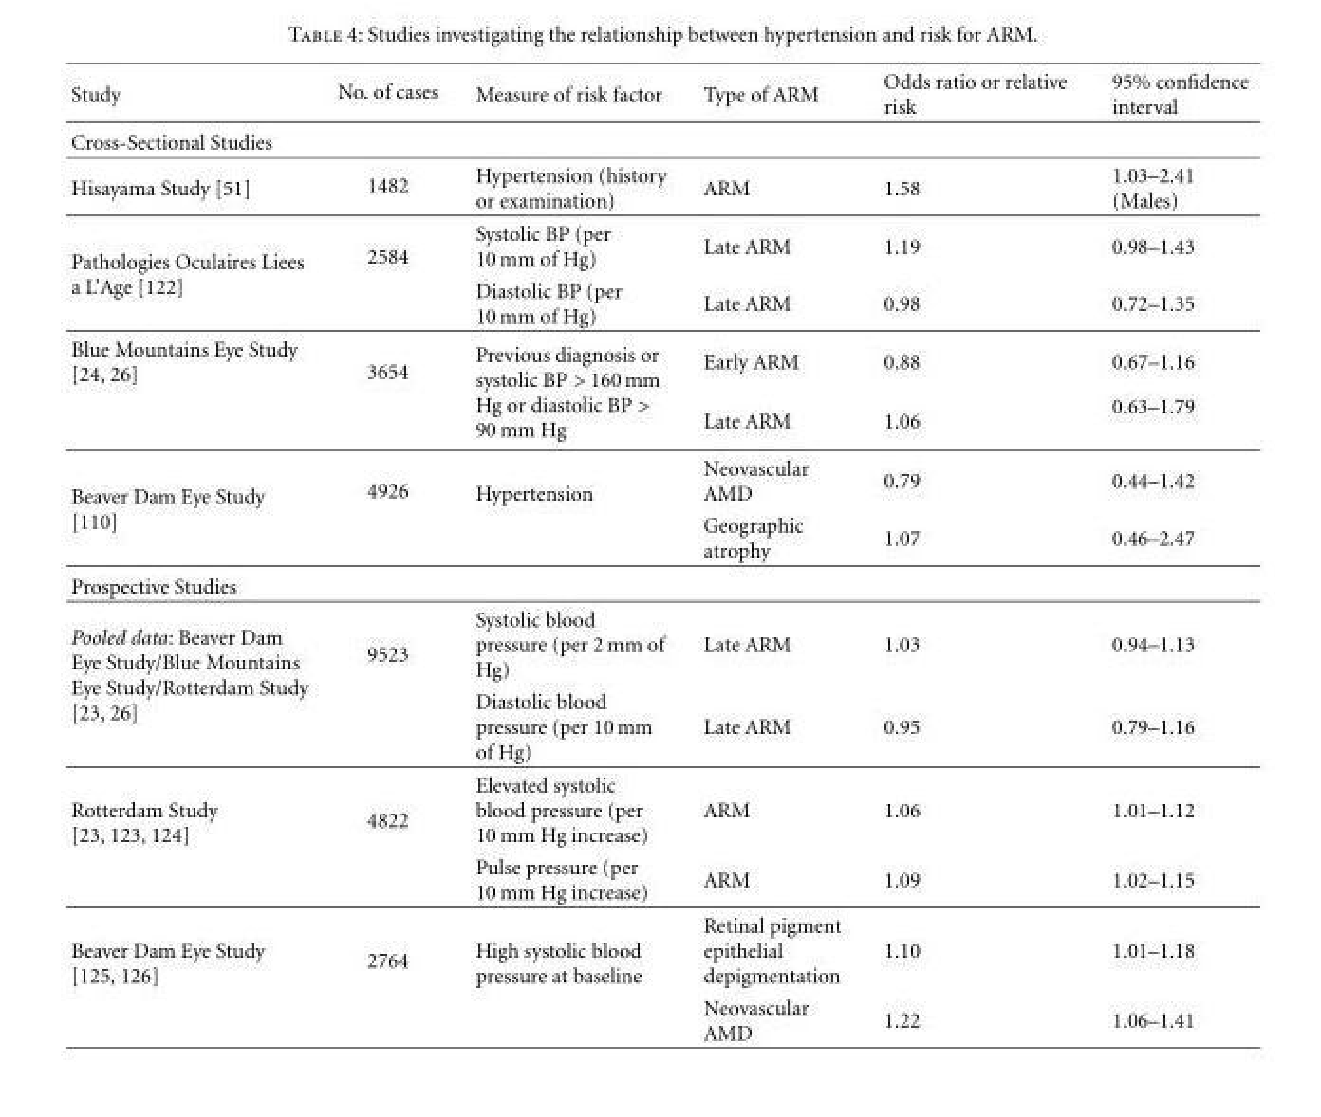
<table><thead><tr><td>Study</td><td>No. of cases</td><td>Measure of risk factor</td><td>Type of ARM</td><td>Odds ratio or relative risk</td><td>95% confidence interval</td></tr></thead><tbody><tr><td colspan="6">Cross-Sectional Studies</td></tr><tr><td>Hisayama Study [51]</td><td>1482</td><td>Hypertension (history or examination)</td><td>ARM</td><td>1.58</td><td>1.03–2.41 (Males)</td></tr><tr><td rowspan="2">Pathologies Oculaires Liees a L’Age [122]</td><td rowspan="2">2584</td><td>Systolic BP (per 10 mm of Hg)</td><td>Late ARM</td><td>1.19</td><td>0.98–1.43</td></tr><tr><td>Diastolic BP (per 10 mm of Hg)</td><td>Late ARM</td><td>0.98</td><td>0.72–1.35</td></tr><tr><td rowspan="2">Blue Mountains Eye Study [24, 26]</td><td rowspan="2">3654</td><td rowspan="2">Previous diagnosis or systolic BP &gt; 160 mm Hg or diastolic BP &gt; 90 mm Hg</td><td>Early ARM</td><td>0.88</td><td>0.67–1.16</td></tr><tr><td>Late ARM</td><td>1.06</td><td>0.63–1.79</td></tr><tr><td rowspan="2">Beaver Dam Eye Study [110]</td><td rowspan="2">4926</td><td rowspan="2">Hypertension</td><td>Neovascular AMD</td><td>0.79</td><td>0.44–1.42</td></tr><tr><td>Geographic atrophy</td><td>1.07</td><td>0.46–2.47</td></tr><tr><td colspan="6">Prospective Studies</td></tr><tr><td rowspan="2">Pooled data: Beaver Dam Eye Study/Blue Mountains Eye Study/Rotterdam Study [23, 26]</td><td rowspan="2">9523</td><td>Systolic blood pressure (per 2 mm of Hg)</td><td>Late ARM</td><td>1.03</td><td>0.94–1.13</td></tr><tr><td>Diastolic blood pressure (per 10 mm of Hg)</td><td>Late ARM</td><td>0.95</td><td>0.79–1.16</td></tr><tr><td rowspan="2">Rotterdam Study [23, 123, 124]</td><td rowspan="2">4822</td><td>Elevated systolic blood pressure (per 10 mm Hg increase)</td><td>ARM</td><td>1.06</td><td>1.01–1.12</td></tr><tr><td>Pulse pressure (per 10 mm Hg increase)</td><td>ARM</td><td>1.09</td><td>1.02–1.15</td></tr><tr><td rowspan="2">Beaver Dam Eye Study [125, 126]</td><td rowspan="2">2764</td><td rowspan="2">High systolic blood pressure at baseline</td><td>Retinal pigment epithelial depigmentation</td><td>1.10</td><td>1.01–1.18</td></tr><tr><td>Neovascular AMD</td><td>1.22</td><td>1.06–1.41</td></tr></tbody></table>